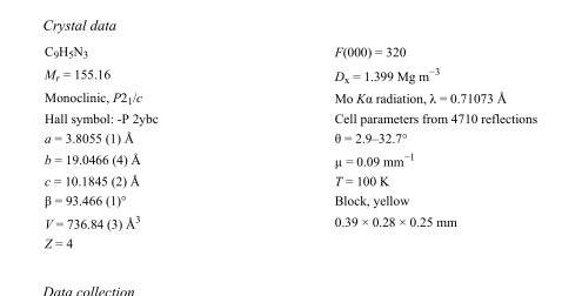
<table><tbody><tr><td>C<sub>9</sub>H<sub>5</sub>N<sub>3</sub></td><td>F(000) = 320</td></tr><tr><td>M<sub>r</sub> = 155.16</td><td>D<sub>x</sub> = 1.399 Mg m<sup>−3</sup></td></tr><tr><td>Monoclinic, P2<sub>1</sub>/c</td><td>Mo Kα radiation, λ = 0.71073 Å</td></tr><tr><td>Hall symbol: -P 2ybc</td><td>Cell parameters from 4710 reflections</td></tr><tr><td>a = 3.8055 (1) Å</td><td>θ = 2.9–32.7°</td></tr><tr><td>b = 19.0466 (4) Å</td><td>µ = 0.09 mm<sup>−1</sup></td></tr><tr><td>c = 10.1845 (2) Å</td><td>T = 100 K</td></tr><tr><td>β = 93.466 (1)°</td><td>Block, yellow</td></tr><tr><td>V = 736.84 (3) Å<sup>3</sup></td><td>0.39 × 0.28 × 0.25 mm</td></tr><tr><td>Z = 4</td><td></td></tr></tbody></table>